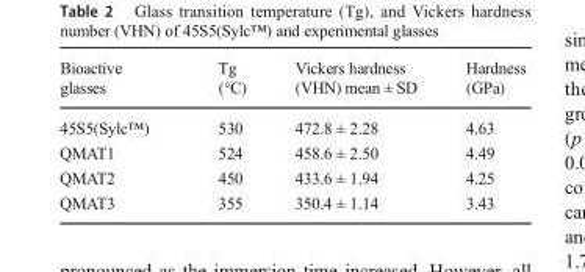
<table><thead><tr><td>Bioactive glasses</td><td>Tg (°C)</td><td>Vickers hardness (VHN) mean ± SD</td><td>Hardness (GPa)</td></tr></thead><tbody><tr><td>45S5(Sylc™)</td><td>530</td><td>472.8 ± 2.28</td><td>4.63</td></tr><tr><td>QMAT1</td><td>524</td><td>458.6 ± 2.50</td><td>4.49</td></tr><tr><td>QMAT2</td><td>450</td><td>433.6 ± 1.94</td><td>4.25</td></tr><tr><td>QMAT3</td><td>355</td><td>350.4 ± 1.14</td><td>3.43</td></tr></tbody></table>